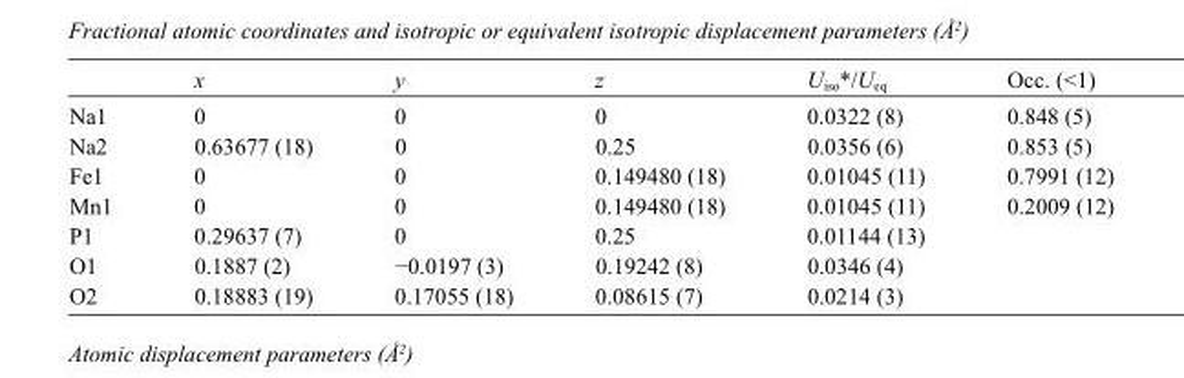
<table><thead><tr><td></td><td>x</td><td>y</td><td>z</td><td>U<sub>iso</sub>*/U<sub>eq</sub></td><td>Occ. (&lt;1)</td></tr></thead><tbody><tr><td>Na1</td><td>0</td><td>0</td><td>0</td><td>0.0322 (8)</td><td>0.848 (5)</td></tr><tr><td>Na2</td><td>0.63677 (18)</td><td>0</td><td>0.25</td><td>0.0356 (6)</td><td>0.853 (5)</td></tr><tr><td>Fe1</td><td>0</td><td>0</td><td>0.149480 (18)</td><td>0.01045 (11)</td><td>0.7991 (12)</td></tr><tr><td>Mn1</td><td>0</td><td>0</td><td>0.149480 (18)</td><td>0.01045 (11)</td><td>0.2009 (12)</td></tr><tr><td>P1</td><td>0.29637 (7)</td><td>0</td><td>0.25</td><td>0.01144 (13)</td><td></td></tr><tr><td>O1</td><td>0.1887 (2)</td><td>−0.0197 (3)</td><td>0.19242 (8)</td><td>0.0346 (4)</td><td></td></tr><tr><td>O2</td><td>0.18883 (19)</td><td>0.17055 (18)</td><td>0.08615 (7)</td><td>0.0214 (3)</td><td></td></tr></tbody></table>